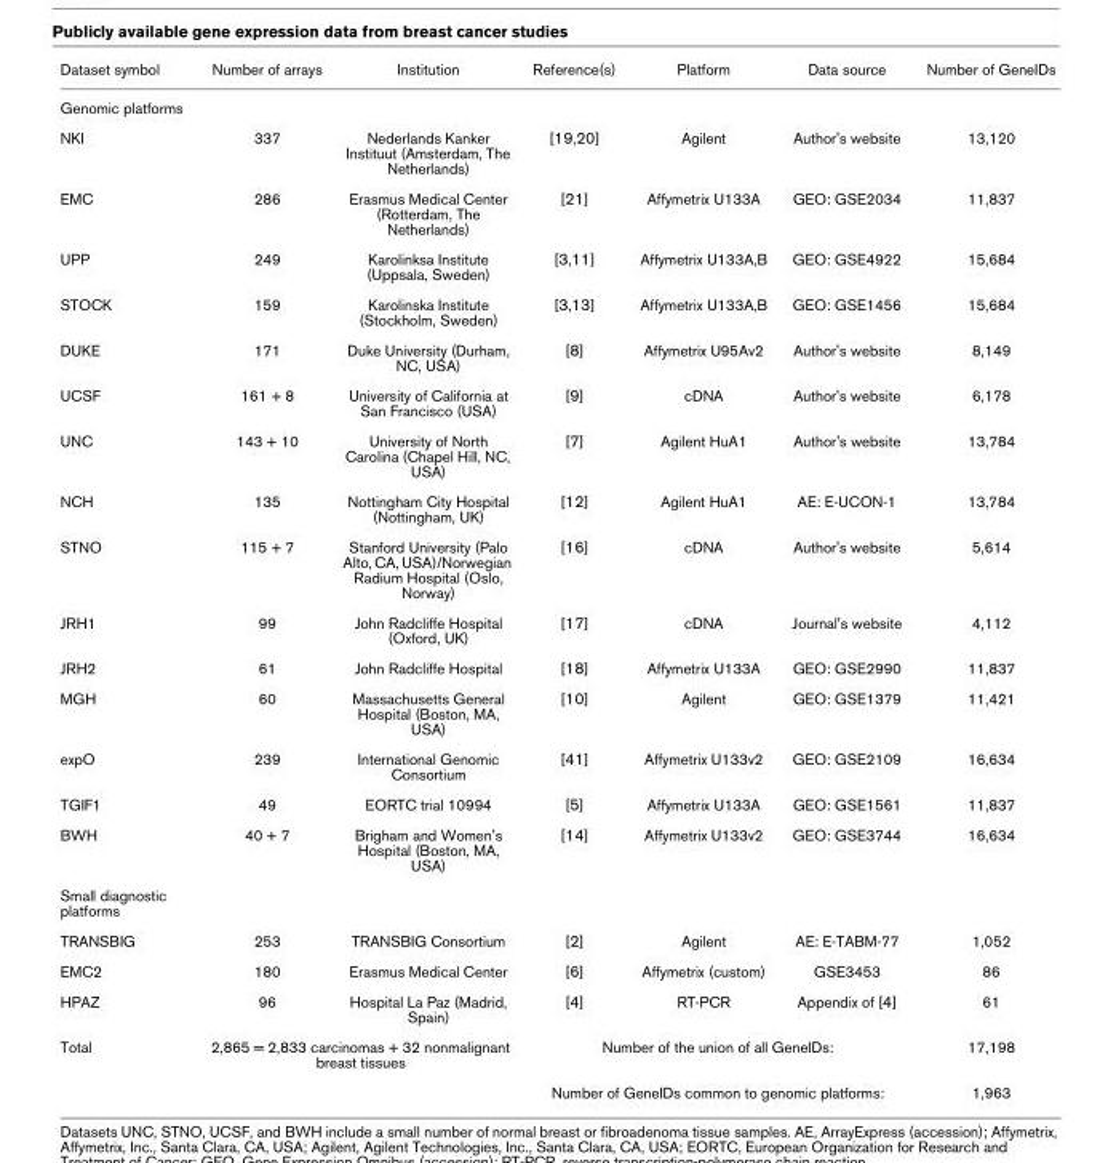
<table><thead><tr><td>Dataset symbol</td><td>Number of arrays</td><td>Institution</td><td>Reference(s)</td><td>Platform</td><td>Data source</td><td>Number of GeneIDs</td></tr></thead><tbody><tr><td colspan="7">Genomic platforms</td></tr><tr><td>NKI</td><td>337</td><td>Nederlands Kanker Instituut (Amsterdam, The Netherlands)</td><td>[19,20]</td><td>Agilent</td><td>Author&#x27;s website</td><td>13,120</td></tr><tr><td>EMC</td><td>286</td><td>Erasmus Medical Center (Rotterdam, The Netherlands)</td><td>[21]</td><td>Affymetrix U133A</td><td>GEO: GSE2034</td><td>11,837</td></tr><tr><td>UPP</td><td>249</td><td>Karolinksa Institute (Uppsala, Sweden)</td><td>[3,11]</td><td>Affymetrix U133A,B</td><td>GEO: GSE4922</td><td>15,684</td></tr><tr><td>STOCK</td><td>159</td><td>Karolinska Institute (Stockholm, Sweden)</td><td>[3,13]</td><td>Affymetrix U133A,B</td><td>GEO: GSE1456</td><td>15,684</td></tr><tr><td>DUKE</td><td>171</td><td>Duke University (Durham, NC, USA)</td><td>[8]</td><td>Affymetrix U95Av2</td><td>Author&#x27;s website</td><td>8,149</td></tr><tr><td>UCSF</td><td>161 + 8</td><td>University of California at San Francisco (USA)</td><td>[9]</td><td>cDNA</td><td>Author&#x27;s website</td><td>6,178</td></tr><tr><td>UNC</td><td>143 + 10</td><td>University of North Carolina (Chapel Hill, NC, USA)</td><td>[7]</td><td>Agilent HuA1</td><td>Author&#x27;s website</td><td>13,784</td></tr><tr><td>NCH</td><td>135</td><td>Nottingham City Hospital (Nottingham, UK)</td><td>[12]</td><td>Agilent HuA1</td><td>AE: E-UCON-1</td><td>13,784</td></tr><tr><td>STNO</td><td>115 + 7</td><td>Stanford University (Palo Alto, CA, USA)/Norwegian Radium Hospital (Oslo, Norway)</td><td>[16]</td><td>cDNA</td><td>Author&#x27;s website</td><td>5,614</td></tr><tr><td>JRH1</td><td>99</td><td>John Radcliffe Hospital (Oxford, UK)</td><td>[17]</td><td>cDNA</td><td>Journal&#x27;s website</td><td>4,112</td></tr><tr><td>JRH2</td><td>61</td><td>John Radcliffe Hospital</td><td>[18]</td><td>Affymetrix U133A</td><td>GEO: GSE2990</td><td>11,837</td></tr><tr><td>MGH</td><td>60</td><td>Massachusetts General Hospital (Boston, MA, USA)</td><td>[10]</td><td>Agilent</td><td>GEO: GSE1379</td><td>11,421</td></tr><tr><td>expO</td><td>239</td><td>International Genomic Consortium</td><td>[41]</td><td>Affymetrix U133v2</td><td>GEO: GSE2109</td><td>16,634</td></tr><tr><td>TGIF1</td><td>49</td><td>EORTC trial 10994</td><td>[5]</td><td>Affymetrix U133A</td><td>GEO: GSE1561</td><td>11,837</td></tr><tr><td>BWH</td><td>40 + 7</td><td>Brigham and Women&#x27;s Hospital (Boston, MA, USA)</td><td>[14]</td><td>Affymetrix U133v2</td><td>GEO: GSE3744</td><td>16,634</td></tr><tr><td colspan="7">Small diagnostic platforms</td></tr><tr><td>TRANSBIG</td><td>253</td><td>TRANSBIG Consortium</td><td>[2]</td><td>Agilent</td><td>AE: E-TABM-77</td><td>1,052</td></tr><tr><td>EMC2</td><td>180</td><td>Erasmus Medical Center</td><td>[6]</td><td>Affymetrix (custom)</td><td>GSE3453</td><td>86</td></tr><tr><td>HPAZ</td><td>96</td><td>Hospital La Paz (Madrid, Spain)</td><td>[4]</td><td>RT-PCR</td><td>Appendix of [4]</td><td>61</td></tr><tr><td rowspan="2">Total</td><td colspan="2">2,865 = 2,833 carcinomas + 32 nonmalignant breast tissues</td><td colspan="3">Number of the union of all GeneIDs:</td><td>17,198</td></tr><tr><td></td><td></td><td colspan="3">Number of GeneIDs common to genomic platforms:</td><td>1,963</td></tr></tbody></table>